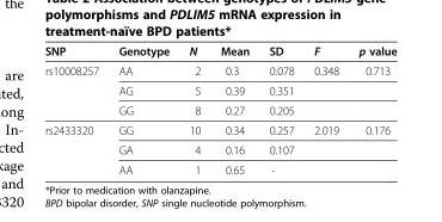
<table><thead><tr><td>SNP</td><td>Genotype</td><td>N</td><td>Mean</td><td>SD</td><td>F</td><td>p value</td></tr></thead><tbody><tr><td rowspan="3">rs10008257</td><td>AA</td><td>2</td><td>0.3</td><td>0.078</td><td>0.348</td><td>0.713</td></tr><tr><td>AG</td><td>5</td><td>0.39</td><td>0.351</td><td></td><td></td></tr><tr><td>GG</td><td>8</td><td>0.27</td><td>0.205</td><td></td><td></td></tr><tr><td rowspan="3">rs2433320</td><td>GG</td><td>10</td><td>0.34</td><td>0.257</td><td>2.019</td><td>0.176</td></tr><tr><td>GA</td><td>4</td><td>0.16</td><td>0.107</td><td></td><td></td></tr><tr><td>AA</td><td>1</td><td>0.65</td><td>-</td><td></td><td></td></tr></tbody></table>